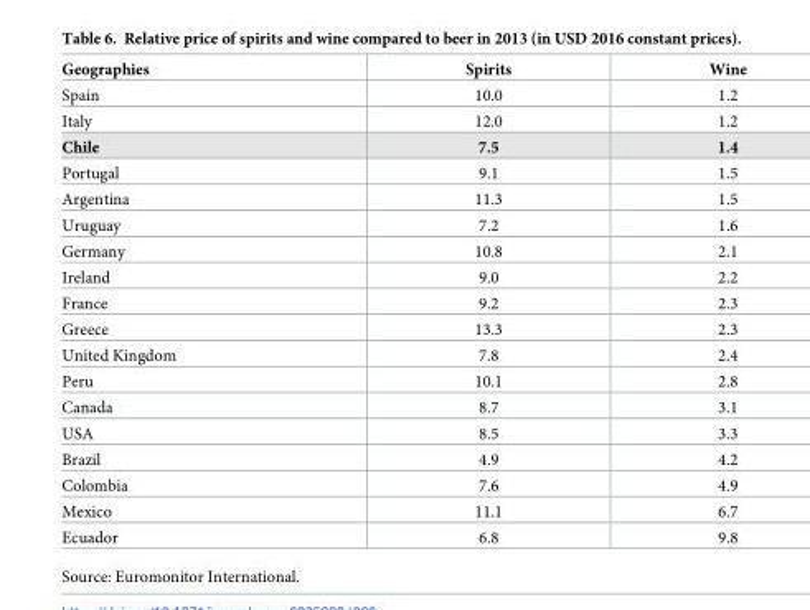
<table><thead><tr><td>Geographies</td><td>Spirits</td><td>Wine</td></tr></thead><tbody><tr><td>Spain</td><td>10.0</td><td>1.2</td></tr><tr><td>Italy</td><td>12.0</td><td>1.2</td></tr><tr><td>Chile</td><td>7.5</td><td>1.4</td></tr><tr><td>Portugal</td><td>9.1</td><td>1.5</td></tr><tr><td>Argentina</td><td>11.3</td><td>1.5</td></tr><tr><td>Uruguay</td><td>7.2</td><td>1.6</td></tr><tr><td>Germany</td><td>10.8</td><td>2.1</td></tr><tr><td>Ireland</td><td>9.0</td><td>2.2</td></tr><tr><td>France</td><td>9.2</td><td>2.3</td></tr><tr><td>Greece</td><td>13.3</td><td>2.3</td></tr><tr><td>United Kingdom</td><td>7.8</td><td>2.4</td></tr><tr><td>Peru</td><td>10.1</td><td>2.8</td></tr><tr><td>Canada</td><td>8.7</td><td>3.1</td></tr><tr><td>USA</td><td>8.5</td><td>3.3</td></tr><tr><td>Brazil</td><td>4.9</td><td>4.2</td></tr><tr><td>Colombia</td><td>7.6</td><td>4.9</td></tr><tr><td>Mexico</td><td>11.1</td><td>6.7</td></tr><tr><td>Ecuador</td><td>6.8</td><td>9.8</td></tr></tbody></table>